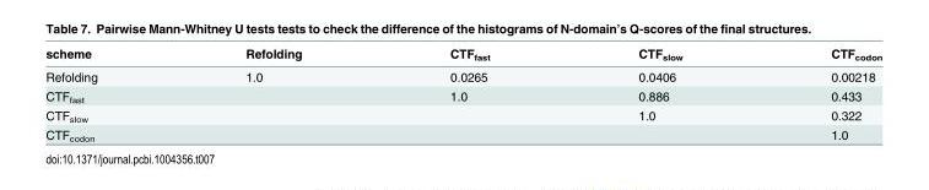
<table><thead><tr><td>scheme</td><td>Refolding</td><td>CTF<sub>fast</sub></td><td>CTF<sub>slow</sub></td><td>CTF<sub>codon</sub></td></tr></thead><tbody><tr><td>Refolding</td><td>1.0</td><td>0.0265</td><td>0.0406</td><td>0.00218</td></tr><tr><td>CTF<sub>fast</sub></td><td></td><td>1.0</td><td>0.886</td><td>0.433</td></tr><tr><td>CTF<sub>slow</sub></td><td></td><td></td><td>1.0</td><td>0.322</td></tr><tr><td>CTF<sub>codon</sub></td><td></td><td></td><td></td><td>1.0</td></tr></tbody></table>